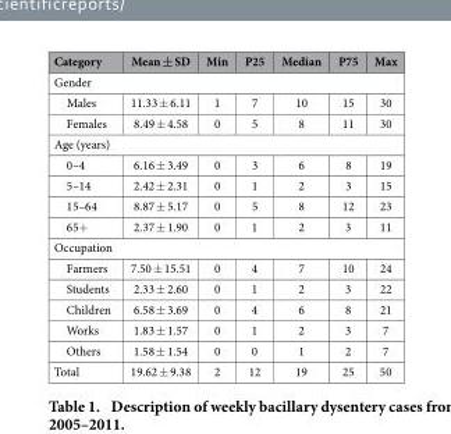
<table><thead><tr><td>Category</td><td>Mean ± SD</td><td>Min</td><td>P25</td><td>Median</td><td>P75</td><td>Max</td></tr></thead><tbody><tr><td colspan="7">Gender</td></tr><tr><td>Males</td><td>11.33 ± 6.11</td><td>1</td><td>7</td><td>10</td><td>15</td><td>30</td></tr><tr><td>Females</td><td>8.49 ± 4.58</td><td>0</td><td>5</td><td>8</td><td>11</td><td>30</td></tr><tr><td colspan="7">Age (years)</td></tr><tr><td>0–4</td><td>6.16 ± 3.49</td><td>0</td><td>3</td><td>6</td><td>8</td><td>19</td></tr><tr><td>5–14</td><td>2.42 ± 2.31</td><td>0</td><td>1</td><td>2</td><td>3</td><td>15</td></tr><tr><td>15–64</td><td>8.87 ± 5.17</td><td>0</td><td>5</td><td>8</td><td>12</td><td>23</td></tr><tr><td>65+</td><td>2.37 ± 1.90</td><td>0</td><td>1</td><td>2</td><td>3</td><td>11</td></tr><tr><td colspan="7">Occupation</td></tr><tr><td>Farmers</td><td>7.50 ± 15.51</td><td>0</td><td>4</td><td>7</td><td>10</td><td>24</td></tr><tr><td>Students</td><td>2.33 ± 2.60</td><td>0</td><td>1</td><td>2</td><td>3</td><td>22</td></tr><tr><td>Children</td><td>6.58 ± 3.69</td><td>0</td><td>4</td><td>6</td><td>8</td><td>21</td></tr><tr><td>Works</td><td>1.83 ± 1.57</td><td>0</td><td>1</td><td>2</td><td>3</td><td>7</td></tr><tr><td>Others</td><td>1.58 ± 1.54</td><td>0</td><td>0</td><td>1</td><td>2</td><td>7</td></tr><tr><td>Total</td><td>19.62 ± 9.38</td><td>2</td><td>12</td><td>19</td><td>25</td><td>50</td></tr></tbody></table>